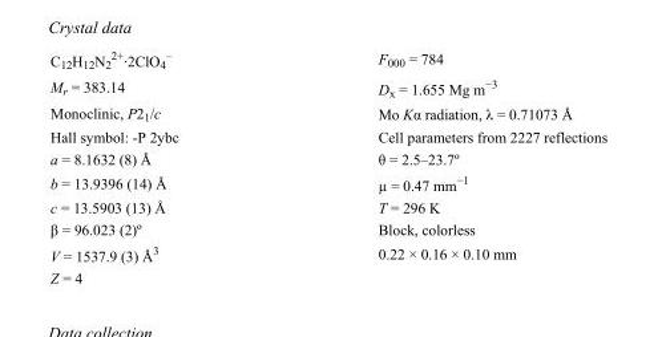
<table><tbody><tr><td>C<sub>12</sub>H<sub>12</sub>N<sub>2</sub> <sup>2+</sup>·2ClO<sub>4</sub> <sup>–</sup></td><td>F000 = 784</td></tr><tr><td>M<sub>r</sub> = 383.14</td><td>D<sub>x</sub> = 1.655 Mg m<sup>−3</sup></td></tr><tr><td>Monoclinic, P2<sub>1</sub>/c</td><td>Mo Kα radiation, λ = 0.71073 Å</td></tr><tr><td>Hall symbol: -P 2ybc</td><td>Cell parameters from 2227 reflections</td></tr><tr><td>a = 8.1632 (8) Å</td><td>θ = 2.5–23.7º</td></tr><tr><td>b = 13.9396 (14) Å</td><td>µ = 0.47 mm<sup>−1</sup></td></tr><tr><td>c = 13.5903 (13) Å</td><td>T = 296 K</td></tr><tr><td>β = 96.023 (2)º</td><td>Block, colorless</td></tr><tr><td>V = 1537.9 (3) Å<sup>3</sup></td><td>0.22 × 0.16 × 0.10 mm</td></tr><tr><td>Z = 4</td><td></td></tr></tbody></table>